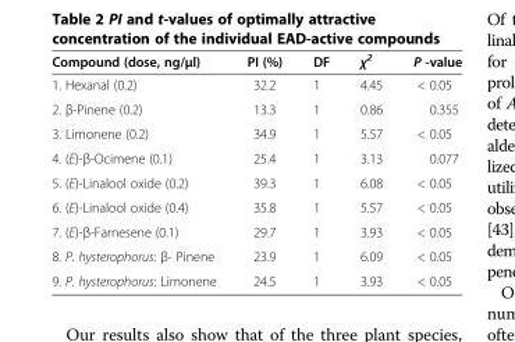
<table><thead><tr><td>Compound (dose, ng/μl)</td><td>PI (%)</td><td>DF</td><td>χ<sup>2</sup></td><td>P -value</td></tr></thead><tbody><tr><td>1. Hexanal (0.2)</td><td>32.2</td><td>1</td><td>4.45</td><td>&lt; 0.05</td></tr><tr><td>2. β-Pinene (0.2)</td><td>13.3</td><td>1</td><td>0.86</td><td>0.355</td></tr><tr><td>3. Limonene (0.2)</td><td>34.9</td><td>1</td><td>5.57</td><td>&lt; 0.05</td></tr><tr><td>4. (E)-β-Ocimene (0.1)</td><td>25.4</td><td>1</td><td>3.13</td><td>0.077</td></tr><tr><td>5. (E)-Linalool oxide (0.2)</td><td>39.3</td><td>1</td><td>6.08</td><td>&lt; 0.05</td></tr><tr><td>6. (E)-Linalool oxide (0.4)</td><td>35.8</td><td>1</td><td>5.57</td><td>&lt; 0.05</td></tr><tr><td>7. (E)-β-Farnesene (0.1)</td><td>29.7</td><td>1</td><td>3.93</td><td>&lt; 0.05</td></tr><tr><td>8. P. hysterophorus: β- Pinene</td><td>23.9</td><td>1</td><td>6.09</td><td>&lt; 0.05</td></tr><tr><td>9. P. hysterophorus: Limonene</td><td>24.5</td><td>1</td><td>3.93</td><td>&lt; 0.05</td></tr></tbody></table>